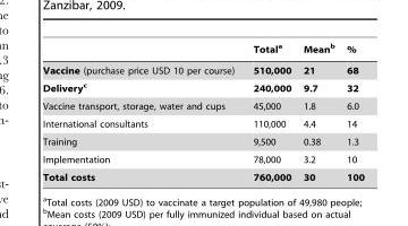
<table><thead><tr><td></td><td>Total<sup>a</sup></td><td>Mean<sup>b</sup></td><td>%</td></tr></thead><tbody><tr><td>Vaccine (purchase price USD 10 per course)</td><td>510,000</td><td>21</td><td>68</td></tr><tr><td>Deliveryc</td><td>240,000</td><td>9.7</td><td>32</td></tr><tr><td>Vaccine transport, storage, water and cups</td><td>45,000</td><td>1.8</td><td>6.0</td></tr><tr><td>International consultants</td><td>110,000</td><td>4.4</td><td>14</td></tr><tr><td>Training</td><td>9,500</td><td>0.38</td><td>1.3</td></tr><tr><td>Implementation</td><td>78,000</td><td>3.2</td><td>10</td></tr><tr><td>Total costs</td><td>760,000</td><td>30</td><td>100</td></tr></tbody></table>